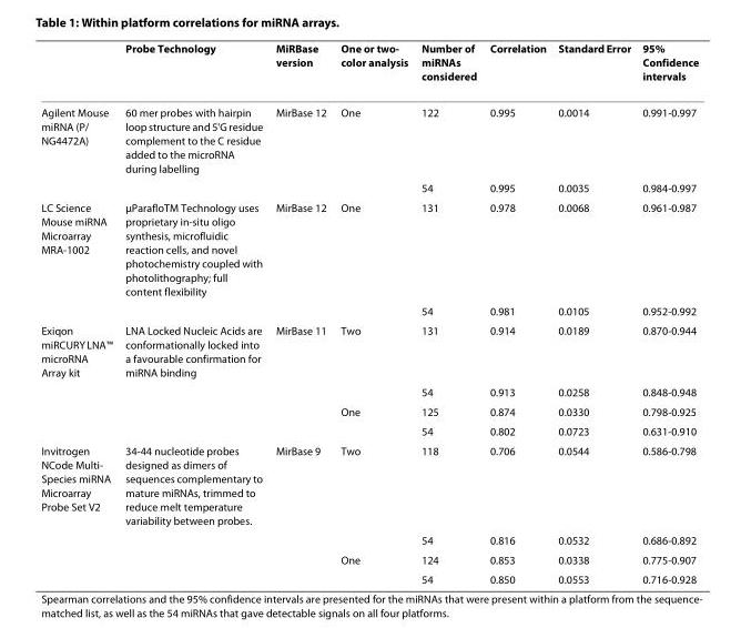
<table><thead><tr><td></td><td>Probe Technology</td><td>MiRBase version</td><td>One or two- color analysis</td><td>Number of miRNAs considered</td><td>Correlation</td><td>Standard Error</td><td>95% Confidence intervals</td></tr></thead><tbody><tr><td rowspan="2">Agilent Mouse miRNA (P/ NG4472A)</td><td>60 mer probes with hairpin loop structure and 5&#x27;G residue complement to the C residue added to the microRNA during labelling</td><td>MirBase 12</td><td>One</td><td>122</td><td>0.995</td><td>0.0014</td><td>0.991-0.997</td></tr><tr><td></td><td></td><td></td><td>54</td><td>0.995</td><td>0.0035</td><td>0.984-0.997</td></tr><tr><td rowspan="2">LC Science Mouse miRNA Microarray MRA-1002</td><td>μParafloTM Technology uses proprietary in-situ oligo synthesis, microfluidic reaction cells, and novel photochemistry coupled with photolithography; full content flexibility</td><td>MirBase 12</td><td>One</td><td>131</td><td>0.978</td><td>0.0068</td><td>0.961-0.987</td></tr><tr><td></td><td></td><td></td><td>54</td><td>0.981</td><td>0.0105</td><td>0.952-0.992</td></tr><tr><td rowspan="4">Exiqon miRCURY LNA™ microRNA Array kit</td><td>LNA Locked Nucleic Acids are conformationally locked into a favourable confirmation for miRNA binding</td><td>MirBase 11</td><td>Two</td><td>131</td><td>0.914</td><td>0.0189</td><td>0.870-0.944</td></tr><tr><td></td><td></td><td></td><td>54</td><td>0.913</td><td>0.0258</td><td>0.848-0.948</td></tr><tr><td></td><td></td><td>One</td><td>125</td><td>0.874</td><td>0.0330</td><td>0.798-0.925</td></tr><tr><td></td><td></td><td></td><td>54</td><td>0.802</td><td>0.0723</td><td>0.631-0.910</td></tr><tr><td rowspan="4">Invitrogen NCode Multi- Species miRNA Microarray Probe Set V2</td><td>34-44 nucleotide probes designed as dimers of sequences complementary to mature miRNAs, trimmed to reduce melt temperature variability between probes.</td><td>MirBase 9</td><td>Two</td><td>118</td><td>0.706</td><td>0.0544</td><td>0.586-0.798</td></tr><tr><td></td><td></td><td></td><td>54</td><td>0.816</td><td>0.0532</td><td>0.686-0.892</td></tr><tr><td></td><td></td><td>One</td><td>124</td><td>0.853</td><td>0.0338</td><td>0.775-0.907</td></tr><tr><td></td><td></td><td></td><td>54</td><td>0.850</td><td>0.0553</td><td>0.716-0.928</td></tr></tbody></table>